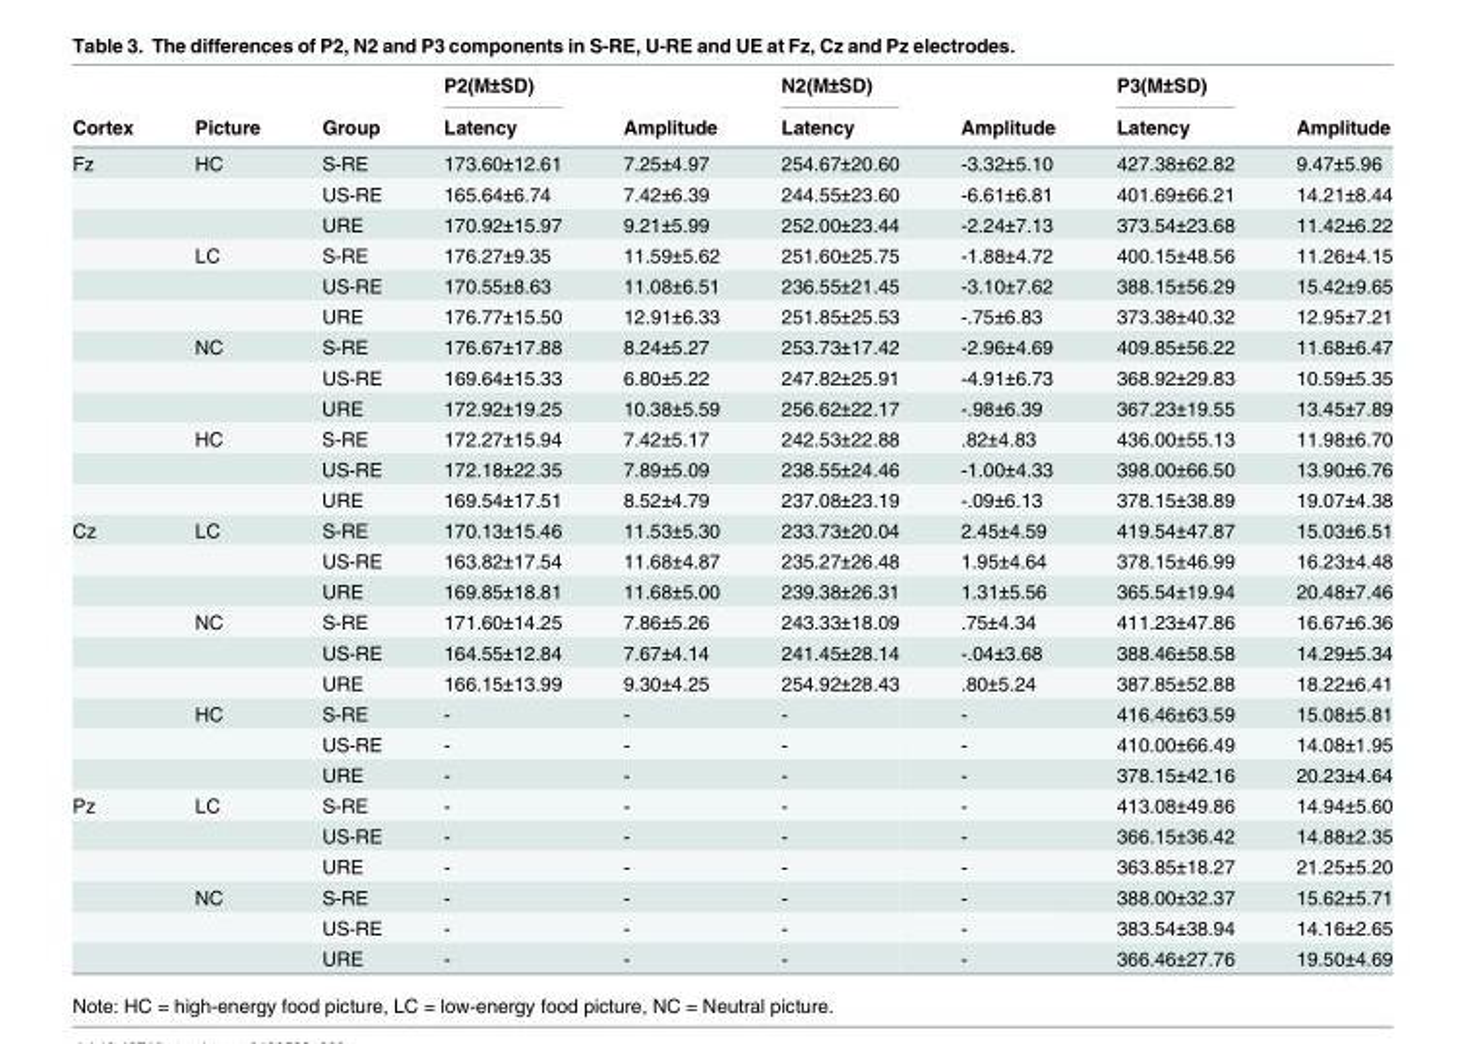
<table><thead><tr><td rowspan="2">Cortex</td><td rowspan="2">Picture</td><td rowspan="2">Group</td><td rowspan="2">P2(M±SD) Latency</td><td rowspan="2">Amplitude</td><td rowspan="2">N2(M±SD) Latency</td><td rowspan="2">Amplitude</td><td rowspan="2">P3(M±SD) Latency</td><td rowspan="2">Amplitude</td></tr><tr></tr></thead><tbody><tr><td rowspan="12">Fz</td><td>HC</td><td>S-RE</td><td>173.60±12.61</td><td>7.25±4.97</td><td>254.67±20.60</td><td>-3.32±5.10</td><td>427.38±62.82</td><td>9.47±5.96</td></tr><tr><td></td><td>US-RE</td><td>165.64±6.74</td><td>7.42±6.39</td><td>244.55±23.60</td><td>-6.61±6.81</td><td>401.69±66.21</td><td>14.21±8.44</td></tr><tr><td></td><td>URE</td><td>170.92±15.97</td><td>9.21±5.99</td><td>252.00±23.44</td><td>-2.24±7.13</td><td>373.54±23.68</td><td>11.42±6.22</td></tr><tr><td>LC</td><td>S-RE</td><td>176.27±9.35</td><td>11.59±5.62</td><td>251.60±25.75</td><td>-1.88±4.72</td><td>400.15±48.56</td><td>11.26±4.15</td></tr><tr><td></td><td>US-RE</td><td>170.55±8.63</td><td>11.08±6.51</td><td>236.55±21.45</td><td>-3.10±7.62</td><td>388.15±56.29</td><td>15.42±9.65</td></tr><tr><td></td><td>URE</td><td>176.77±15.50</td><td>12.91±6.33</td><td>251.85±25.53</td><td>-.75±6.83</td><td>373.38±40.32</td><td>12.95±7.21</td></tr><tr><td>NC</td><td>S-RE</td><td>176.67±17.88</td><td>8.24±5.27</td><td>253.73±17.42</td><td>-2.96±4.69</td><td>409.85±56.22</td><td>11.68±6.47</td></tr><tr><td></td><td>US-RE</td><td>169.64±15.33</td><td>6.80±5.22</td><td>247.82±25.91</td><td>-4.91±6.73</td><td>368.92±29.83</td><td>10.59±5.35</td></tr><tr><td></td><td>URE</td><td>172.92±19.25</td><td>10.38±5.59</td><td>256.62±22.17</td><td>-.98±6.39</td><td>367.23±19.55</td><td>13.45±7.89</td></tr><tr><td>HC</td><td>S-RE</td><td>172.27±15.94</td><td>7.42±5.17</td><td>242.53±22.88</td><td>.82±4.83</td><td>436.00±55.13</td><td>11.98±6.70</td></tr><tr><td></td><td>US-RE</td><td>172.18±22.35</td><td>7.89±5.09</td><td>238.55±24.46</td><td>-1.00±4.33</td><td>398.00±66.50</td><td>13.90±6.76</td></tr><tr><td></td><td>URE</td><td>169.54±17.51</td><td>8.52±4.79</td><td>237.08±23.19</td><td>-.09±6.13</td><td>378.15±38.89</td><td>19.07±4.38</td></tr><tr><td rowspan="9">Cz</td><td>LC</td><td>S-RE</td><td>170.13±15.46</td><td>11.53±5.30</td><td>233.73±20.04</td><td>2.45±4.59</td><td>419.54±47.87</td><td>15.03±6.51</td></tr><tr><td></td><td>US-RE</td><td>163.82±17.54</td><td>11.68±4.87</td><td>235.27±26.48</td><td>1.95±4.64</td><td>378.15±46.99</td><td>16.23±4.48</td></tr><tr><td></td><td>URE</td><td>169.85±18.81</td><td>11.68±5.00</td><td>239.38±26.31</td><td>1.31±5.56</td><td>365.54±19.94</td><td>20.48±7.46</td></tr><tr><td>NC</td><td>S-RE</td><td>171.60±14.25</td><td>7.86±5.26</td><td>243.33±18.09</td><td>.75±4.34</td><td>411.23±47.86</td><td>16.67±6.36</td></tr><tr><td></td><td>US-RE</td><td>164.55±12.84</td><td>7.67±4.14</td><td>241.45±28.14</td><td>-.04±3.68</td><td>388.46±58.58</td><td>14.29±5.34</td></tr><tr><td></td><td>URE</td><td>166.15±13.99</td><td>9.30±4.25</td><td>254.92±28.43</td><td>.80±5.24</td><td>387.85±52.88</td><td>18.22±6.41</td></tr><tr><td>HC</td><td>S-RE</td><td>-</td><td>-</td><td>-</td><td>-</td><td>416.46±63.59</td><td>15.08±5.81</td></tr><tr><td></td><td>US-RE</td><td>-</td><td>-</td><td>-</td><td>-</td><td>410.00±66.49</td><td>14.08±1.95</td></tr><tr><td></td><td>URE</td><td>-</td><td>-</td><td>-</td><td>-</td><td>378.15±42.16</td><td>20.23±4.64</td></tr><tr><td rowspan="6">Pz</td><td>LC</td><td>S-RE</td><td>-</td><td>-</td><td>-</td><td>-</td><td>413.08±49.86</td><td>14.94±5.60</td></tr><tr><td></td><td>US-RE</td><td>-</td><td>-</td><td>-</td><td>-</td><td>366.15±36.42</td><td>14.88±2.35</td></tr><tr><td></td><td>URE</td><td>-</td><td>-</td><td>-</td><td>-</td><td>363.85±18.27</td><td>21.25±5.20</td></tr><tr><td>NC</td><td>S-RE</td><td>-</td><td>-</td><td>-</td><td>-</td><td>388.00±32.37</td><td>15.62±5.71</td></tr><tr><td></td><td>US-RE</td><td>-</td><td>-</td><td>-</td><td>-</td><td>383.54±38.94</td><td>14.16±2.65</td></tr><tr><td></td><td>URE</td><td>-</td><td>-</td><td>-</td><td>-</td><td>366.46±27.76</td><td>19.50±4.69</td></tr></tbody></table>